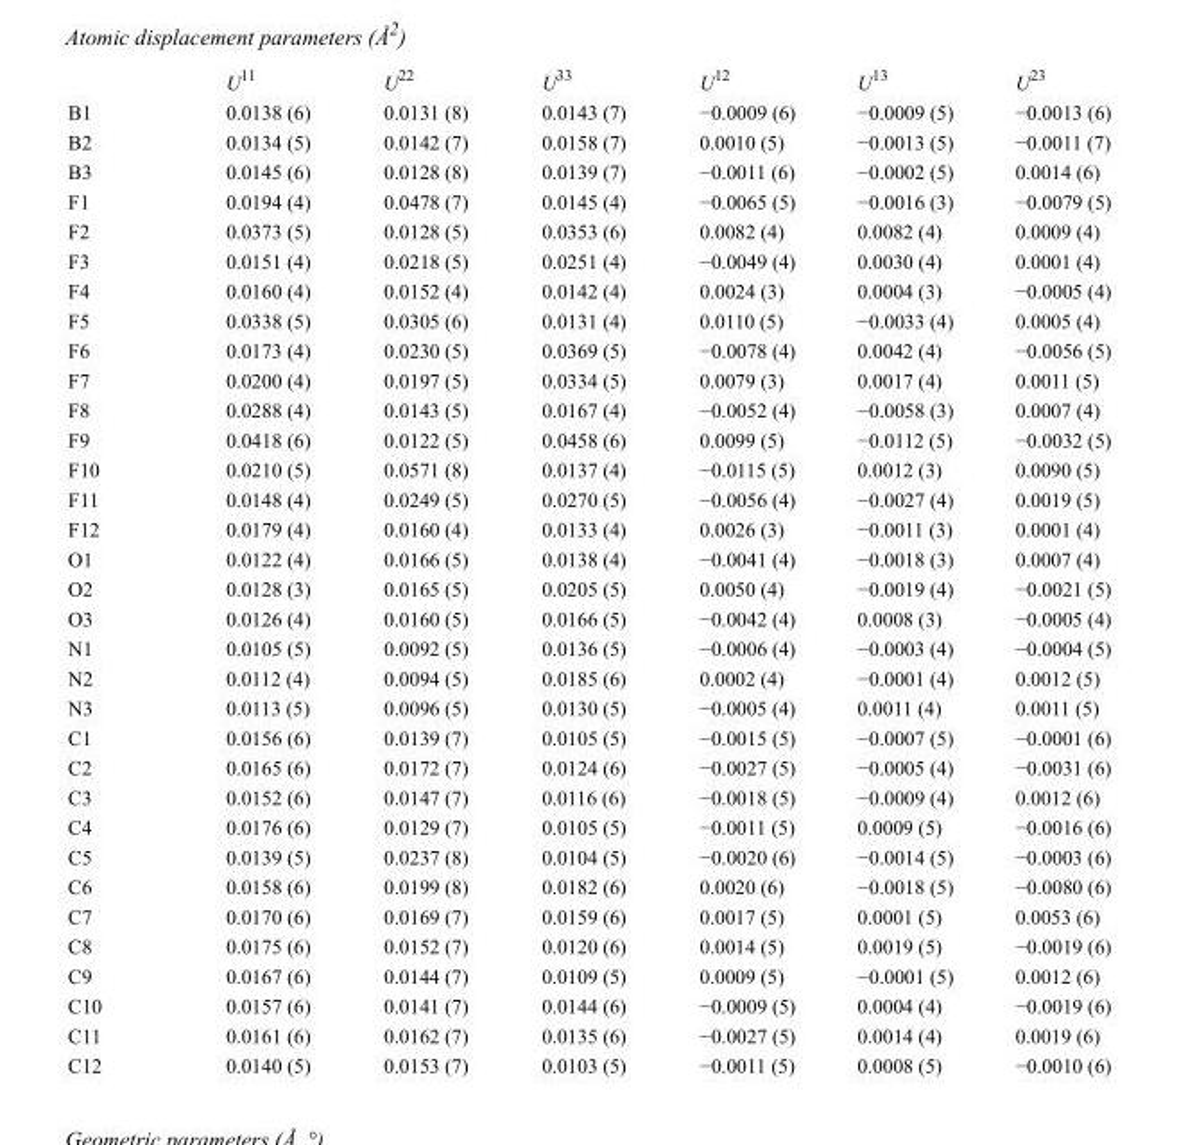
<table><thead><tr><td></td><td>U<sup>11</sup></td><td>U<sup>22</sup></td><td>U<sup>33</sup></td><td>U<sup>12</sup></td><td>U<sup>13</sup></td><td>U<sup>23</sup></td></tr></thead><tbody><tr><td>B1</td><td>0.0138 (6)</td><td>0.0131 (8)</td><td>0.0143 (7)</td><td>−0.0009 (6)</td><td>−0.0009 (5)</td><td>−0.0013 (6)</td></tr><tr><td>B2</td><td>0.0134 (5)</td><td>0.0142 (7)</td><td>0.0158 (7)</td><td>0.0010 (5)</td><td>−0.0013 (5)</td><td>−0.0011 (7)</td></tr><tr><td>B3</td><td>0.0145 (6)</td><td>0.0128 (8)</td><td>0.0139 (7)</td><td>−0.0011 (6)</td><td>−0.0002 (5)</td><td>0.0014 (6)</td></tr><tr><td>F1</td><td>0.0194 (4)</td><td>0.0478 (7)</td><td>0.0145 (4)</td><td>−0.0065 (5)</td><td>−0.0016 (3)</td><td>−0.0079 (5)</td></tr><tr><td>F2</td><td>0.0373 (5)</td><td>0.0128 (5)</td><td>0.0353 (6)</td><td>0.0082 (4)</td><td>0.0082 (4)</td><td>0.0009 (4)</td></tr><tr><td>F3</td><td>0.0151 (4)</td><td>0.0218 (5)</td><td>0.0251 (4)</td><td>−0.0049 (4)</td><td>0.0030 (4)</td><td>0.0001 (4)</td></tr><tr><td>F4</td><td>0.0160 (4)</td><td>0.0152 (4)</td><td>0.0142 (4)</td><td>0.0024 (3)</td><td>0.0004 (3)</td><td>−0.0005 (4)</td></tr><tr><td>F5</td><td>0.0338 (5)</td><td>0.0305 (6)</td><td>0.0131 (4)</td><td>0.0110 (5)</td><td>−0.0033 (4)</td><td>0.0005 (4)</td></tr><tr><td>F6</td><td>0.0173 (4)</td><td>0.0230 (5)</td><td>0.0369 (5)</td><td>−0.0078 (4)</td><td>0.0042 (4)</td><td>−0.0056 (5)</td></tr><tr><td>F7</td><td>0.0200 (4)</td><td>0.0197 (5)</td><td>0.0334 (5)</td><td>0.0079 (3)</td><td>0.0017 (4)</td><td>0.0011 (5)</td></tr><tr><td>F8</td><td>0.0288 (4)</td><td>0.0143 (5)</td><td>0.0167 (4)</td><td>−0.0052 (4)</td><td>−0.0058 (3)</td><td>0.0007 (4)</td></tr><tr><td>F9</td><td>0.0418 (6)</td><td>0.0122 (5)</td><td>0.0458 (6)</td><td>0.0099 (5)</td><td>−0.0112 (5)</td><td>−0.0032 (5)</td></tr><tr><td>F10</td><td>0.0210 (5)</td><td>0.0571 (8)</td><td>0.0137 (4)</td><td>−0.0115 (5)</td><td>0.0012 (3)</td><td>0.0090 (5)</td></tr><tr><td>F11</td><td>0.0148 (4)</td><td>0.0249 (5)</td><td>0.0270 (5)</td><td>−0.0056 (4)</td><td>−0.0027 (4)</td><td>0.0019 (5)</td></tr><tr><td>F12</td><td>0.0179 (4)</td><td>0.0160 (4)</td><td>0.0133 (4)</td><td>0.0026 (3)</td><td>−0.0011 (3)</td><td>0.0001 (4)</td></tr><tr><td>O1</td><td>0.0122 (4)</td><td>0.0166 (5)</td><td>0.0138 (4)</td><td>−0.0041 (4)</td><td>−0.0018 (3)</td><td>0.0007 (4)</td></tr><tr><td>O2</td><td>0.0128 (3)</td><td>0.0165 (5)</td><td>0.0205 (5)</td><td>0.0050 (4)</td><td>−0.0019 (4)</td><td>−0.0021 (5)</td></tr><tr><td>O3</td><td>0.0126 (4)</td><td>0.0160 (5)</td><td>0.0166 (5)</td><td>−0.0042 (4)</td><td>0.0008 (3)</td><td>−0.0005 (4)</td></tr><tr><td>N1</td><td>0.0105 (5)</td><td>0.0092 (5)</td><td>0.0136 (5)</td><td>−0.0006 (4)</td><td>−0.0003 (4)</td><td>−0.0004 (5)</td></tr><tr><td>N2</td><td>0.0112 (4)</td><td>0.0094 (5)</td><td>0.0185 (6)</td><td>0.0002 (4)</td><td>−0.0001 (4)</td><td>0.0012 (5)</td></tr><tr><td>N3</td><td>0.0113 (5)</td><td>0.0096 (5)</td><td>0.0130 (5)</td><td>−0.0005 (4)</td><td>0.0011 (4)</td><td>0.0011 (5)</td></tr><tr><td>C1</td><td>0.0156 (6)</td><td>0.0139 (7)</td><td>0.0105 (5)</td><td>−0.0015 (5)</td><td>−0.0007 (5)</td><td>−0.0001 (6)</td></tr><tr><td>C2</td><td>0.0165 (6)</td><td>0.0172 (7)</td><td>0.0124 (6)</td><td>−0.0027 (5)</td><td>−0.0005 (4)</td><td>−0.0031 (6)</td></tr><tr><td>C3</td><td>0.0152 (6)</td><td>0.0147 (7)</td><td>0.0116 (6)</td><td>−0.0018 (5)</td><td>−0.0009 (4)</td><td>0.0012 (6)</td></tr><tr><td>C4</td><td>0.0176 (6)</td><td>0.0129 (7)</td><td>0.0105 (5)</td><td>−0.0011 (5)</td><td>0.0009 (5)</td><td>−0.0016 (6)</td></tr><tr><td>C5</td><td>0.0139 (5)</td><td>0.0237 (8)</td><td>0.0104 (5)</td><td>−0.0020 (6)</td><td>−0.0014 (5)</td><td>−0.0003 (6)</td></tr><tr><td>C6</td><td>0.0158 (6)</td><td>0.0199 (8)</td><td>0.0182 (6)</td><td>0.0020 (6)</td><td>−0.0018 (5)</td><td>−0.0080 (6)</td></tr><tr><td>C7</td><td>0.0170 (6)</td><td>0.0169 (7)</td><td>0.0159 (6)</td><td>0.0017 (5)</td><td>0.0001 (5)</td><td>0.0053 (6)</td></tr><tr><td>C8</td><td>0.0175 (6)</td><td>0.0152 (7)</td><td>0.0120 (6)</td><td>0.0014 (5)</td><td>0.0019 (5)</td><td>−0.0019 (6)</td></tr><tr><td>C9</td><td>0.0167 (6)</td><td>0.0144 (7)</td><td>0.0109 (5)</td><td>0.0009 (5)</td><td>−0.0001 (5)</td><td>0.0012 (6)</td></tr><tr><td>C10</td><td>0.0157 (6)</td><td>0.0141 (7)</td><td>0.0144 (6)</td><td>−0.0009 (5)</td><td>0.0004 (4)</td><td>−0.0019 (6)</td></tr><tr><td>C11</td><td>0.0161 (6)</td><td>0.0162 (7)</td><td>0.0135 (6)</td><td>−0.0027 (5)</td><td>0.0014 (4)</td><td>0.0019 (6)</td></tr><tr><td>C12</td><td>0.0140 (5)</td><td>0.0153 (7)</td><td>0.0103 (5)</td><td>−0.0011 (5)</td><td>0.0008 (5)</td><td>−0.0010 (6)</td></tr></tbody></table>